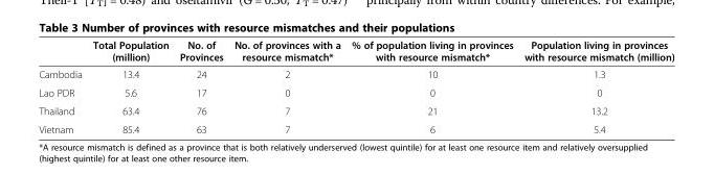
<table><thead><tr><td></td><td>Total Population (million)</td><td>No. of Provinces</td><td>No. of provinces with a resource mismatch*</td><td>% of population living in provinces with resource mismatch*</td><td>Population living in provinces with resource mismatch (million)</td></tr></thead><tbody><tr><td>Cambodia</td><td>13.4</td><td>24</td><td>2</td><td>10</td><td>1.3</td></tr><tr><td>Lao PDR</td><td>5.6</td><td>17</td><td>0</td><td>0</td><td>0</td></tr><tr><td>Thailand</td><td>63.4</td><td>76</td><td>7</td><td>21</td><td>13.2</td></tr><tr><td>Vietnam</td><td>85.4</td><td>63</td><td>7</td><td>6</td><td>5.4</td></tr></tbody></table>